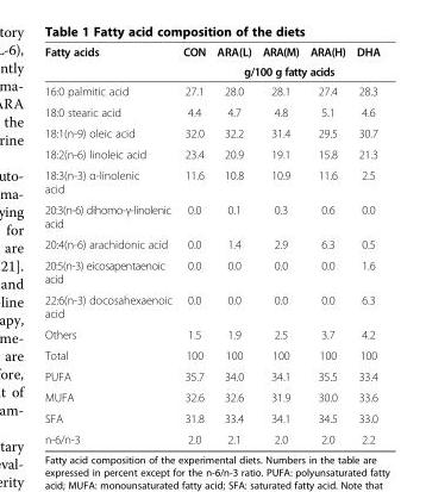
<table><thead><tr><td rowspan="2">Fatty acids</td><td rowspan="2">CON</td><td>ARA(L)</td><td>ARA(M)</td><td>ARA(H)</td><td rowspan="2">DHA</td></tr><tr><td colspan="3">g/100 g fatty acids</td></tr></thead><tbody><tr><td>16:0 palmitic acid</td><td>27.1</td><td>28.0</td><td>28.1</td><td>27.4</td><td>28.3</td></tr><tr><td>18:0 stearic acid</td><td>4.4</td><td>4.7</td><td>4.8</td><td>5.1</td><td>4.6</td></tr><tr><td>18:1(n-9) oleic acid</td><td>32.0</td><td>32.2</td><td>31.4</td><td>29.5</td><td>30.7</td></tr><tr><td>18:2(n-6) linoleic acid</td><td>23.4</td><td>20.9</td><td>19.1</td><td>15.8</td><td>21.3</td></tr><tr><td>18:3(n-3) α-linolenic acid</td><td>11.6</td><td>10.8</td><td>10.9</td><td>11.6</td><td>2.5</td></tr><tr><td>20:3(n-6) dihomo-γ-linolenic acid</td><td>0.0</td><td>0.1</td><td>0.3</td><td>0.6</td><td>0.0</td></tr><tr><td>20:4(n-6) arachidonic acid</td><td>0.0</td><td>1.4</td><td>2.9</td><td>6.3</td><td>0.5</td></tr><tr><td>20:5(n-3) eicosapentaenoic acid</td><td>0.0</td><td>0.0</td><td>0.0</td><td>0.0</td><td>1.6</td></tr><tr><td>22:6(n-3) docosahexaenoic acid</td><td>0.0</td><td>0.0</td><td>0.0</td><td>0.0</td><td>6.3</td></tr><tr><td>Others</td><td>1.5</td><td>1.9</td><td>2.5</td><td>3.7</td><td>4.2</td></tr><tr><td>Total</td><td>100</td><td>100</td><td>100</td><td>100</td><td>100</td></tr><tr><td>PUFA</td><td>35.7</td><td>34.0</td><td>34.1</td><td>35.5</td><td>33.4</td></tr><tr><td>MUFA</td><td>32.6</td><td>32.6</td><td>31.9</td><td>30.0</td><td>33.6</td></tr><tr><td>SFA</td><td>31.8</td><td>33.4</td><td>34.1</td><td>34.5</td><td>33.0</td></tr><tr><td>n-6/n-3</td><td>2.0</td><td>2.1</td><td>2.0</td><td>2.0</td><td>2.2</td></tr></tbody></table>